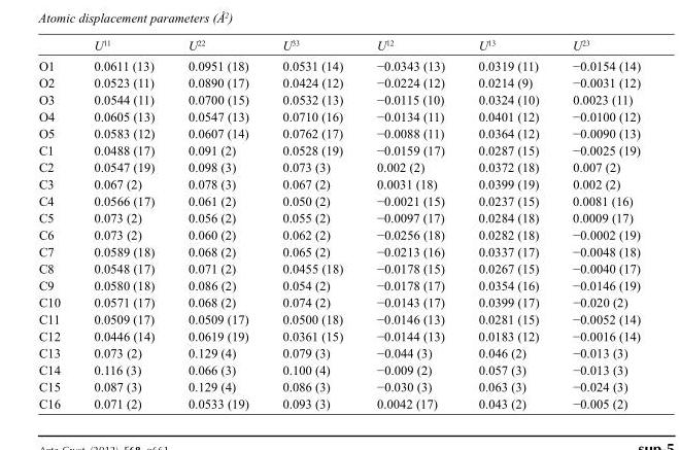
<table><thead><tr><td></td><td>U<sup>11</sup></td><td>U<sup>22</sup></td><td>U<sup>33</sup></td><td>U<sup>12</sup></td><td>U<sup>13</sup></td><td>U<sup>23</sup></td></tr></thead><tbody><tr><td>O1</td><td>0.0611 (13)</td><td>0.0951 (18)</td><td>0.0531 (14)</td><td>−0.0343 (13)</td><td>0.0319 (11)</td><td>−0.0154 (14)</td></tr><tr><td>O2</td><td>0.0523 (11)</td><td>0.0890 (17)</td><td>0.0424 (12)</td><td>−0.0224 (12)</td><td>0.0214 (9)</td><td>−0.0031 (12)</td></tr><tr><td>O3</td><td>0.0544 (11)</td><td>0.0700 (15)</td><td>0.0532 (13)</td><td>−0.0115 (10)</td><td>0.0324 (10)</td><td>0.0023 (11)</td></tr><tr><td>O4</td><td>0.0605 (13)</td><td>0.0547 (13)</td><td>0.0710 (16)</td><td>−0.0134 (11)</td><td>0.0401 (12)</td><td>−0.0100 (12)</td></tr><tr><td>O5</td><td>0.0583 (12)</td><td>0.0607 (14)</td><td>0.0762 (17)</td><td>−0.0088 (11)</td><td>0.0364 (12)</td><td>−0.0090 (13)</td></tr><tr><td>C1</td><td>0.0488 (17)</td><td>0.091 (2)</td><td>0.0528 (19)</td><td>−0.0159 (17)</td><td>0.0287 (15)</td><td>−0.0025 (19)</td></tr><tr><td>C2</td><td>0.0547 (19)</td><td>0.098 (3)</td><td>0.073 (3)</td><td>0.002 (2)</td><td>0.0372 (18)</td><td>0.007 (2)</td></tr><tr><td>C3</td><td>0.067 (2)</td><td>0.078 (3)</td><td>0.067 (2)</td><td>0.0031 (18)</td><td>0.0399 (19)</td><td>0.002 (2)</td></tr><tr><td>C4</td><td>0.0566 (17)</td><td>0.061 (2)</td><td>0.050 (2)</td><td>−0.0021 (15)</td><td>0.0237 (15)</td><td>0.0081 (16)</td></tr><tr><td>C5</td><td>0.073 (2)</td><td>0.056 (2)</td><td>0.055 (2)</td><td>−0.0097 (17)</td><td>0.0284 (18)</td><td>0.0009 (17)</td></tr><tr><td>C6</td><td>0.073 (2)</td><td>0.060 (2)</td><td>0.062 (2)</td><td>−0.0256 (18)</td><td>0.0282 (18)</td><td>−0.0002 (19)</td></tr><tr><td>C7</td><td>0.0589 (18)</td><td>0.068 (2)</td><td>0.065 (2)</td><td>−0.0213 (16)</td><td>0.0337 (17)</td><td>−0.0048 (18)</td></tr><tr><td>C8</td><td>0.0548 (17)</td><td>0.071 (2)</td><td>0.0455 (18)</td><td>−0.0178 (15)</td><td>0.0267 (15)</td><td>−0.0040 (17)</td></tr><tr><td>C9</td><td>0.0580 (18)</td><td>0.086 (2)</td><td>0.054 (2)</td><td>−0.0178 (17)</td><td>0.0354 (16)</td><td>−0.0146 (19)</td></tr><tr><td>C10</td><td>0.0571 (17)</td><td>0.068 (2)</td><td>0.074 (2)</td><td>−0.0143 (17)</td><td>0.0399 (17)</td><td>−0.020 (2)</td></tr><tr><td>C11</td><td>0.0509 (17)</td><td>0.0509 (17)</td><td>0.0500 (18)</td><td>−0.0146 (13)</td><td>0.0281 (15)</td><td>−0.0052 (14)</td></tr><tr><td>C12</td><td>0.0446 (14)</td><td>0.0619 (19)</td><td>0.0361 (15)</td><td>−0.0144 (13)</td><td>0.0183 (12)</td><td>−0.0016 (14)</td></tr><tr><td>C13</td><td>0.073 (2)</td><td>0.129 (4)</td><td>0.079 (3)</td><td>−0.044 (3)</td><td>0.046 (2)</td><td>−0.013 (3)</td></tr><tr><td>C14</td><td>0.116 (3)</td><td>0.066 (3)</td><td>0.100 (4)</td><td>−0.009 (2)</td><td>0.057 (3)</td><td>−0.013 (3)</td></tr><tr><td>C15</td><td>0.087 (3)</td><td>0.129 (4)</td><td>0.086 (3)</td><td>−0.030 (3)</td><td>0.063 (3)</td><td>−0.024 (3)</td></tr><tr><td>C16</td><td>0.071 (2)</td><td>0.0533 (19)</td><td>0.093 (3)</td><td>0.0042 (17)</td><td>0.043 (2)</td><td>−0.005 (2)</td></tr></tbody></table>